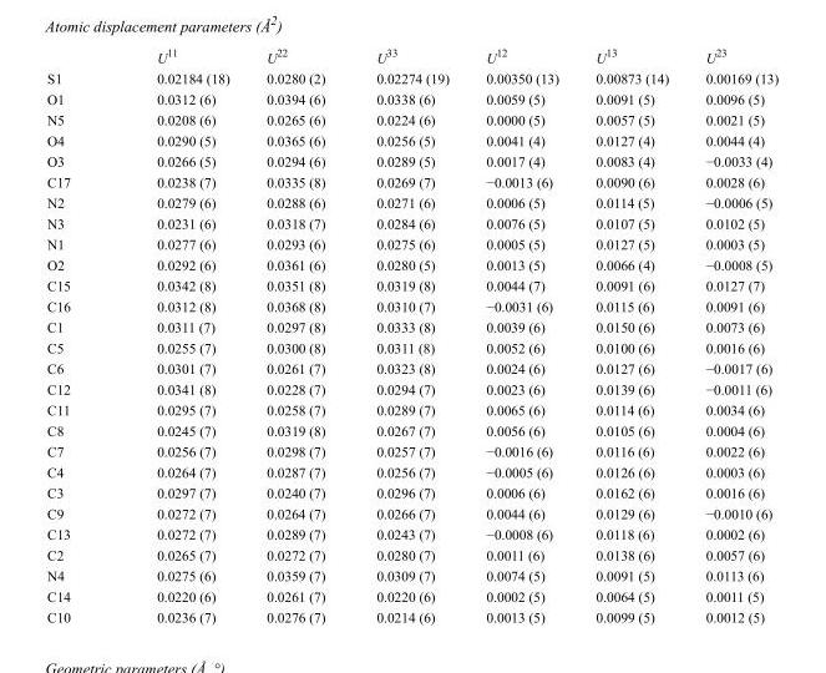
<table><thead><tr><td></td><td>U<sup>11</sup></td><td>U<sup>22</sup></td><td>U<sup>33</sup></td><td>U<sup>12</sup></td><td>U<sup>13</sup></td><td>U<sup>23</sup></td></tr></thead><tbody><tr><td>S1</td><td>0.02184 (18)</td><td>0.0280 (2)</td><td>0.02274 (19)</td><td>0.00350 (13)</td><td>0.00873 (14)</td><td>0.00169 (13)</td></tr><tr><td>O1</td><td>0.0312 (6)</td><td>0.0394 (6)</td><td>0.0338 (6)</td><td>0.0059 (5)</td><td>0.0091 (5)</td><td>0.0096 (5)</td></tr><tr><td>N5</td><td>0.0208 (6)</td><td>0.0265 (6)</td><td>0.0224 (6)</td><td>0.0000 (5)</td><td>0.0057 (5)</td><td>0.0021 (5)</td></tr><tr><td>O4</td><td>0.0290 (5)</td><td>0.0365 (6)</td><td>0.0256 (5)</td><td>0.0041 (4)</td><td>0.0127 (4)</td><td>0.0044 (4)</td></tr><tr><td>O3</td><td>0.0266 (5)</td><td>0.0294 (6)</td><td>0.0289 (5)</td><td>0.0017 (4)</td><td>0.0083 (4)</td><td>−0.0033 (4)</td></tr><tr><td>C17</td><td>0.0238 (7)</td><td>0.0335 (8)</td><td>0.0269 (7)</td><td>−0.0013 (6)</td><td>0.0090 (6)</td><td>0.0028 (6)</td></tr><tr><td>N2</td><td>0.0279 (6)</td><td>0.0288 (6)</td><td>0.0271 (6)</td><td>0.0006 (5)</td><td>0.0114 (5)</td><td>−0.0006 (5)</td></tr><tr><td>N3</td><td>0.0231 (6)</td><td>0.0318 (7)</td><td>0.0284 (6)</td><td>0.0076 (5)</td><td>0.0107 (5)</td><td>0.0102 (5)</td></tr><tr><td>N1</td><td>0.0277 (6)</td><td>0.0293 (6)</td><td>0.0275 (6)</td><td>0.0005 (5)</td><td>0.0127 (5)</td><td>0.0003 (5)</td></tr><tr><td>O2</td><td>0.0292 (6)</td><td>0.0361 (6)</td><td>0.0280 (5)</td><td>0.0013 (5)</td><td>0.0066 (4)</td><td>−0.0008 (5)</td></tr><tr><td>C15</td><td>0.0342 (8)</td><td>0.0351 (8)</td><td>0.0319 (8)</td><td>0.0044 (7)</td><td>0.0091 (6)</td><td>0.0127 (7)</td></tr><tr><td>C16</td><td>0.0312 (8)</td><td>0.0368 (8)</td><td>0.0310 (7)</td><td>−0.0031 (6)</td><td>0.0115 (6)</td><td>0.0091 (6)</td></tr><tr><td>C1</td><td>0.0311 (7)</td><td>0.0297 (8)</td><td>0.0333 (8)</td><td>0.0039 (6)</td><td>0.0150 (6)</td><td>0.0073 (6)</td></tr><tr><td>C5</td><td>0.0255 (7)</td><td>0.0300 (8)</td><td>0.0311 (8)</td><td>0.0052 (6)</td><td>0.0100 (6)</td><td>0.0016 (6)</td></tr><tr><td>C6</td><td>0.0301 (7)</td><td>0.0261 (7)</td><td>0.0323 (8)</td><td>0.0024 (6)</td><td>0.0127 (6)</td><td>−0.0017 (6)</td></tr><tr><td>C12</td><td>0.0341 (8)</td><td>0.0228 (7)</td><td>0.0294 (7)</td><td>0.0023 (6)</td><td>0.0139 (6)</td><td>−0.0011 (6)</td></tr><tr><td>C11</td><td>0.0295 (7)</td><td>0.0258 (7)</td><td>0.0289 (7)</td><td>0.0065 (6)</td><td>0.0114 (6)</td><td>0.0034 (6)</td></tr><tr><td>C8</td><td>0.0245 (7)</td><td>0.0319 (8)</td><td>0.0267 (7)</td><td>0.0056 (6)</td><td>0.0105 (6)</td><td>0.0004 (6)</td></tr><tr><td>C7</td><td>0.0256 (7)</td><td>0.0298 (7)</td><td>0.0257 (7)</td><td>−0.0016 (6)</td><td>0.0116 (6)</td><td>0.0022 (6)</td></tr><tr><td>C4</td><td>0.0264 (7)</td><td>0.0287 (7)</td><td>0.0256 (7)</td><td>−0.0005 (6)</td><td>0.0126 (6)</td><td>0.0003 (6)</td></tr><tr><td>C3</td><td>0.0297 (7)</td><td>0.0240 (7)</td><td>0.0296 (7)</td><td>0.0006 (6)</td><td>0.0162 (6)</td><td>0.0016 (6)</td></tr><tr><td>C9</td><td>0.0272 (7)</td><td>0.0264 (7)</td><td>0.0266 (7)</td><td>0.0044 (6)</td><td>0.0129 (6)</td><td>−0.0010 (6)</td></tr><tr><td>C13</td><td>0.0272 (7)</td><td>0.0289 (7)</td><td>0.0243 (7)</td><td>−0.0008 (6)</td><td>0.0118 (6)</td><td>0.0002 (6)</td></tr><tr><td>C2</td><td>0.0265 (7)</td><td>0.0272 (7)</td><td>0.0280 (7)</td><td>0.0011 (6)</td><td>0.0138 (6)</td><td>0.0057 (6)</td></tr><tr><td>N4</td><td>0.0275 (6)</td><td>0.0359 (7)</td><td>0.0309 (7)</td><td>0.0074 (5)</td><td>0.0091 (5)</td><td>0.0113 (6)</td></tr><tr><td>C14</td><td>0.0220 (6)</td><td>0.0261 (7)</td><td>0.0220 (6)</td><td>0.0002 (5)</td><td>0.0064 (5)</td><td>0.0011 (5)</td></tr><tr><td>C10</td><td>0.0236 (7)</td><td>0.0276 (7)</td><td>0.0214 (6)</td><td>0.0013 (5)</td><td>0.0099 (5)</td><td>0.0012 (5)</td></tr></tbody></table>